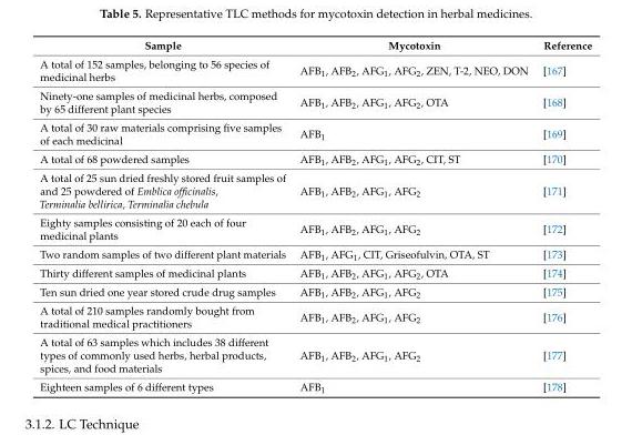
<table><thead><tr><td>Sample</td><td>Mycotoxin</td><td>Reference</td></tr></thead><tbody><tr><td>A total of 152 samples, belonging to 56 species of medicinal herbs</td><td>AFB<sub>1</sub>, AFB<sub>2</sub>, AFG<sub>1</sub>, AFG<sub>2</sub>, ZEN, T-2, NEO, DON</td><td>[167]</td></tr><tr><td>Ninety-one samples of medicinal herbs, composed by 65 different plant species</td><td>AFB<sub>1</sub>, AFB<sub>2</sub>, AFG<sub>1</sub>, AFG<sub>2</sub>, OTA</td><td>[168]</td></tr><tr><td>A total of 30 raw materials comprising five samples of each medicinal</td><td>AFB<sub>1</sub></td><td>[169]</td></tr><tr><td>A total of 68 powdered samples</td><td>AFB<sub>1</sub>, AFB<sub>2</sub>, AFG<sub>1</sub>, AFG<sub>2</sub>, CIT, ST</td><td>[170]</td></tr><tr><td>A total of 25 sun dried freshly stored fruit samples of and 25 powdered of Emblica officinalis, Terminalia bellirica, Terminalia chebula</td><td>AFB<sub>1</sub>, AFB<sub>2</sub>, AFG<sub>1</sub>, AFG<sub>2</sub></td><td>[171]</td></tr><tr><td>Eighty samples consisting of 20 each of four medicinal plants</td><td>AFB<sub>1</sub>, AFB<sub>2</sub>, AFG<sub>1</sub>, AFG<sub>2</sub></td><td>[172]</td></tr><tr><td>Two random samples of two different plant materials</td><td>AFB<sub>1</sub>, AFG<sub>1</sub>, CIT, Griseofulvin, OTA, ST</td><td>[173]</td></tr><tr><td>Thirty different samples of medicinal plants</td><td>AFB<sub>1</sub>, AFB<sub>2</sub>, AFG<sub>1</sub>, AFG<sub>2</sub>, OTA</td><td>[174]</td></tr><tr><td>Ten sun dried one year stored crude drug samples</td><td>AFB<sub>1</sub>, AFB<sub>2</sub>, AFG<sub>1</sub>, AFG<sub>2</sub></td><td>[175]</td></tr><tr><td>A total of 210 samples randomly bought from traditional medical practitioners</td><td>AFB<sub>1</sub>, AFB<sub>2</sub>, AFG<sub>1</sub>, AFG<sub>2</sub></td><td>[176]</td></tr><tr><td>A total of 63 samples which includes 38 different types of commonly used herbs, herbal products, spices, and food materials</td><td>AFB<sub>1</sub>, AFB<sub>2</sub>, AFG<sub>1</sub>, AFG<sub>2</sub></td><td>[177]</td></tr><tr><td>Eighteen samples of 6 different types</td><td>AFB<sub>1</sub></td><td>[178]</td></tr></tbody></table>